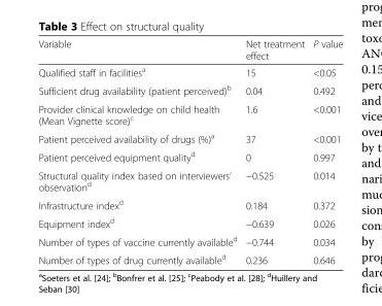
<table><thead><tr><td>Variable</td><td>Net treatment effect</td><td>P value</td></tr></thead><tbody><tr><td>Qualified staff in facilities<sup>a</sup></td><td>15</td><td>&lt;0.05</td></tr><tr><td>Sufficient drug availability (patient perceived)<sup>b</sup></td><td>0.04</td><td>0.492</td></tr><tr><td>Provider clinical knowledge on child health (Mean Vignette score)<sup>c</sup></td><td>1.6</td><td>&lt;0.001</td></tr><tr><td>Patient perceived availability of drugs (%)<sup>a</sup></td><td>37</td><td>&lt;0.001</td></tr><tr><td>Patient perceived equipment quality<sup>d</sup></td><td>0</td><td>0.997</td></tr><tr><td>Structural quality index based on interviewers’ observation<sup>d</sup></td><td>−0.525</td><td>0.014</td></tr><tr><td>Infrastructure index<sup>d</sup></td><td>0.184</td><td>0.372</td></tr><tr><td>Equipment index<sup>d</sup></td><td>−0.639</td><td>0.026</td></tr><tr><td>Number of types of vaccine currently available<sup>d</sup></td><td>−0.744</td><td>0.034</td></tr><tr><td>Number of types of drug currently available<sup>d</sup></td><td>0.236</td><td>0.646</td></tr></tbody></table>